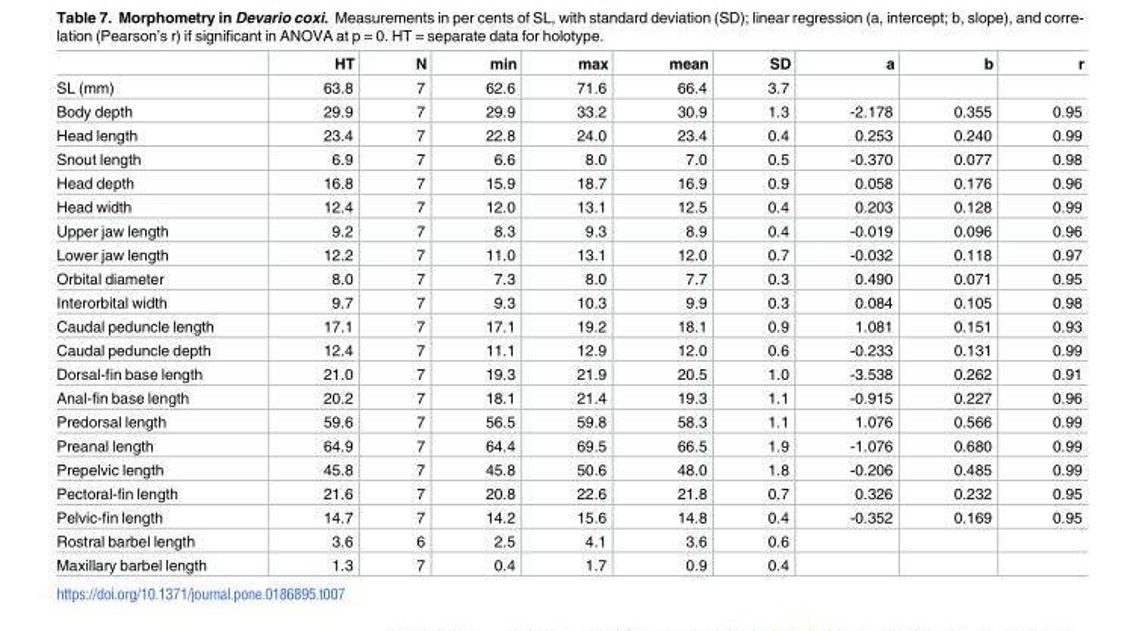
<table><thead><tr><td></td><td>HT</td><td>N</td><td>min</td><td>max</td><td>mean</td><td>SD</td><td>a</td><td>b</td><td>r</td></tr></thead><tbody><tr><td>SL (mm)</td><td>63.8</td><td>7</td><td>62.6</td><td>71.6</td><td>66.4</td><td>3.7</td><td></td><td></td><td></td></tr><tr><td>Body depth</td><td>29.9</td><td>7</td><td>29.9</td><td>33.2</td><td>30.9</td><td>1.3</td><td>-2.178</td><td>0.355</td><td>0.95</td></tr><tr><td>Head length</td><td>23.4</td><td>7</td><td>22.8</td><td>24.0</td><td>23.4</td><td>0.4</td><td>0.253</td><td>0.240</td><td>0.99</td></tr><tr><td>Snout length</td><td>6.9</td><td>7</td><td>6.6</td><td>8.0</td><td>7.0</td><td>0.5</td><td>-0.370</td><td>0.077</td><td>0.98</td></tr><tr><td>Head depth</td><td>16.8</td><td>7</td><td>15.9</td><td>18.7</td><td>16.9</td><td>0.9</td><td>0.058</td><td>0.176</td><td>0.96</td></tr><tr><td>Head width</td><td>12.4</td><td>7</td><td>12.0</td><td>13.1</td><td>12.5</td><td>0.4</td><td>0.203</td><td>0.128</td><td>0.99</td></tr><tr><td>Upper jaw length</td><td>9.2</td><td>7</td><td>8.3</td><td>9.3</td><td>8.9</td><td>0.4</td><td>-0.019</td><td>0.096</td><td>0.96</td></tr><tr><td>Lower jaw length</td><td>12.2</td><td>7</td><td>11.0</td><td>13.1</td><td>12.0</td><td>0.7</td><td>-0.032</td><td>0.118</td><td>0.97</td></tr><tr><td>Orbital diameter</td><td>8.0</td><td>7</td><td>7.3</td><td>8.0</td><td>7.7</td><td>0.3</td><td>0.490</td><td>0.071</td><td>0.95</td></tr><tr><td>Interorbital width</td><td>9.7</td><td>7</td><td>9.3</td><td>10.3</td><td>9.9</td><td>0.3</td><td>0.084</td><td>0.105</td><td>0.98</td></tr><tr><td>Caudal peduncle length</td><td>17.1</td><td>7</td><td>17.1</td><td>19.2</td><td>18.1</td><td>0.9</td><td>1.081</td><td>0.151</td><td>0.93</td></tr><tr><td>Caudal peduncle depth</td><td>12.4</td><td>7</td><td>11.1</td><td>12.9</td><td>12.0</td><td>0.6</td><td>-0.233</td><td>0.131</td><td>0.99</td></tr><tr><td>Dorsal-fin base length</td><td>21.0</td><td>7</td><td>19.3</td><td>21.9</td><td>20.5</td><td>1.0</td><td>-3.538</td><td>0.262</td><td>0.91</td></tr><tr><td>Anal-fin base length</td><td>20.2</td><td>7</td><td>18.1</td><td>21.4</td><td>19.3</td><td>1.1</td><td>-0.915</td><td>0.227</td><td>0.96</td></tr><tr><td>Predorsal length</td><td>59.6</td><td>7</td><td>56.5</td><td>59.8</td><td>58.3</td><td>1.1</td><td>1.076</td><td>0.566</td><td>0.99</td></tr><tr><td>Preanal length</td><td>64.9</td><td>7</td><td>64.4</td><td>69.5</td><td>66.5</td><td>1.9</td><td>-1.076</td><td>0.680</td><td>0.99</td></tr><tr><td>Prepelvic length</td><td>45.8</td><td>7</td><td>45.8</td><td>50.6</td><td>48.0</td><td>1.8</td><td>-0.206</td><td>0.485</td><td>0.99</td></tr><tr><td>Pectoral-fin length</td><td>21.6</td><td>7</td><td>20.8</td><td>22.6</td><td>21.8</td><td>0.7</td><td>0.326</td><td>0.232</td><td>0.95</td></tr><tr><td>Pelvic-fin length</td><td>14.7</td><td>7</td><td>14.2</td><td>15.6</td><td>14.8</td><td>0.4</td><td>-0.352</td><td>0.169</td><td>0.95</td></tr><tr><td>Rostral barbel length</td><td>3.6</td><td>6</td><td>2.5</td><td>4.1</td><td>3.6</td><td>0.6</td><td></td><td></td><td></td></tr><tr><td>Maxillary barbel length</td><td>1.3</td><td>7</td><td>0.4</td><td>1.7</td><td>0.9</td><td>0.4</td><td></td><td></td><td></td></tr></tbody></table>